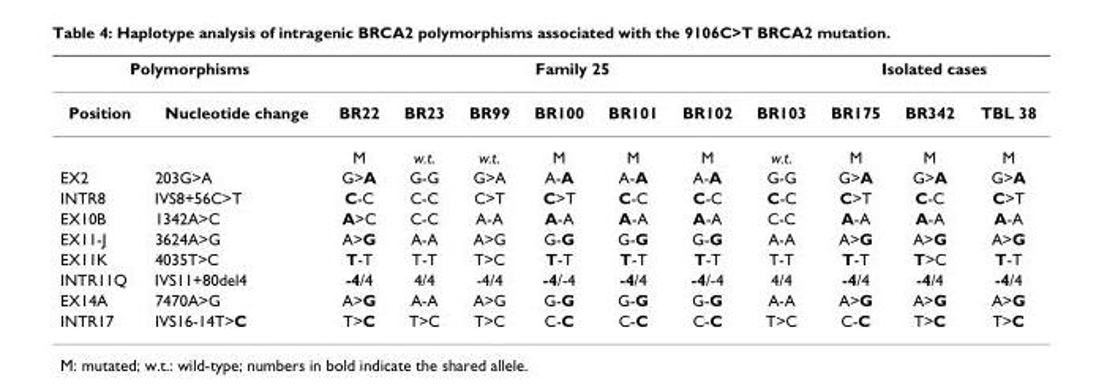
<table><thead><tr><td colspan="2">Polymorphisms</td><td colspan="7">Family 25</td><td colspan="3">Isolated cases</td></tr><tr><td>Position</td><td>Nucleotide change</td><td>BR22</td><td>BR23</td><td>BR99</td><td>BR100</td><td>BR101</td><td>BR102</td><td>BR103</td><td>BR175</td><td>BR342</td><td>TBL 38</td></tr></thead><tbody><tr><td></td><td></td><td>M</td><td>w.t.</td><td>w.t.</td><td>M</td><td>M</td><td>M</td><td>w.t.</td><td>M</td><td>M</td><td>M</td></tr><tr><td>EX2</td><td>203G&gt;A</td><td>G&gt;A</td><td>G-G</td><td>G&gt;A</td><td>A-A</td><td>A-A</td><td>A-A</td><td>G-G</td><td>G&gt;A</td><td>G&gt;A</td><td>G&gt;A</td></tr><tr><td>INTR8</td><td>IVS8+56C&gt;T</td><td>C-C</td><td>C-C</td><td>C&gt;T</td><td>C&gt;T</td><td>C-C</td><td>C-C</td><td>C-C</td><td>C&gt;T</td><td>C-C</td><td>C&gt;T</td></tr><tr><td>EX10B</td><td>1342A&gt;C</td><td>A&gt;C</td><td>C-C</td><td>A-A</td><td>A-A</td><td>A-A</td><td>A-A</td><td>C-C</td><td>A-A</td><td>A-A</td><td>A-A</td></tr><tr><td>EX11-J</td><td>3624A&gt;G</td><td>A&gt;G</td><td>A-A</td><td>A&gt;G</td><td>G-G</td><td>G-G</td><td>G-G</td><td>A-A</td><td>A&gt;G</td><td>A&gt;G</td><td>A&gt;G</td></tr><tr><td>EX11K</td><td>4035T&gt;C</td><td>T-T</td><td>T-T</td><td>T&gt;C</td><td>T-T</td><td>T-T</td><td>T-T</td><td>T-T</td><td>T-T</td><td>T&gt;C</td><td>T-T</td></tr><tr><td>INTR11Q</td><td>IVS11+80del4</td><td>-4/4</td><td>4/4</td><td>-4/4</td><td>-4/-4</td><td>-4/4</td><td>-4/-4</td><td>4/4</td><td>-4/4</td><td>-4/4</td><td>-4/4</td></tr><tr><td>EX14A</td><td>7470A&gt;G</td><td>A&gt;G</td><td>A-A</td><td>A&gt;G</td><td>G-G</td><td>G-G</td><td>G-G</td><td>A-A</td><td>A&gt;G</td><td>A&gt;G</td><td>A&gt;G</td></tr><tr><td>INTR17</td><td>IVS16-14T&gt;C</td><td>T&gt;C</td><td>T&gt;C</td><td>T&gt;C</td><td>C-C</td><td>C-C</td><td>C-C</td><td>T&gt;C</td><td>C-C</td><td>T&gt;C</td><td>T&gt;C</td></tr></tbody></table>